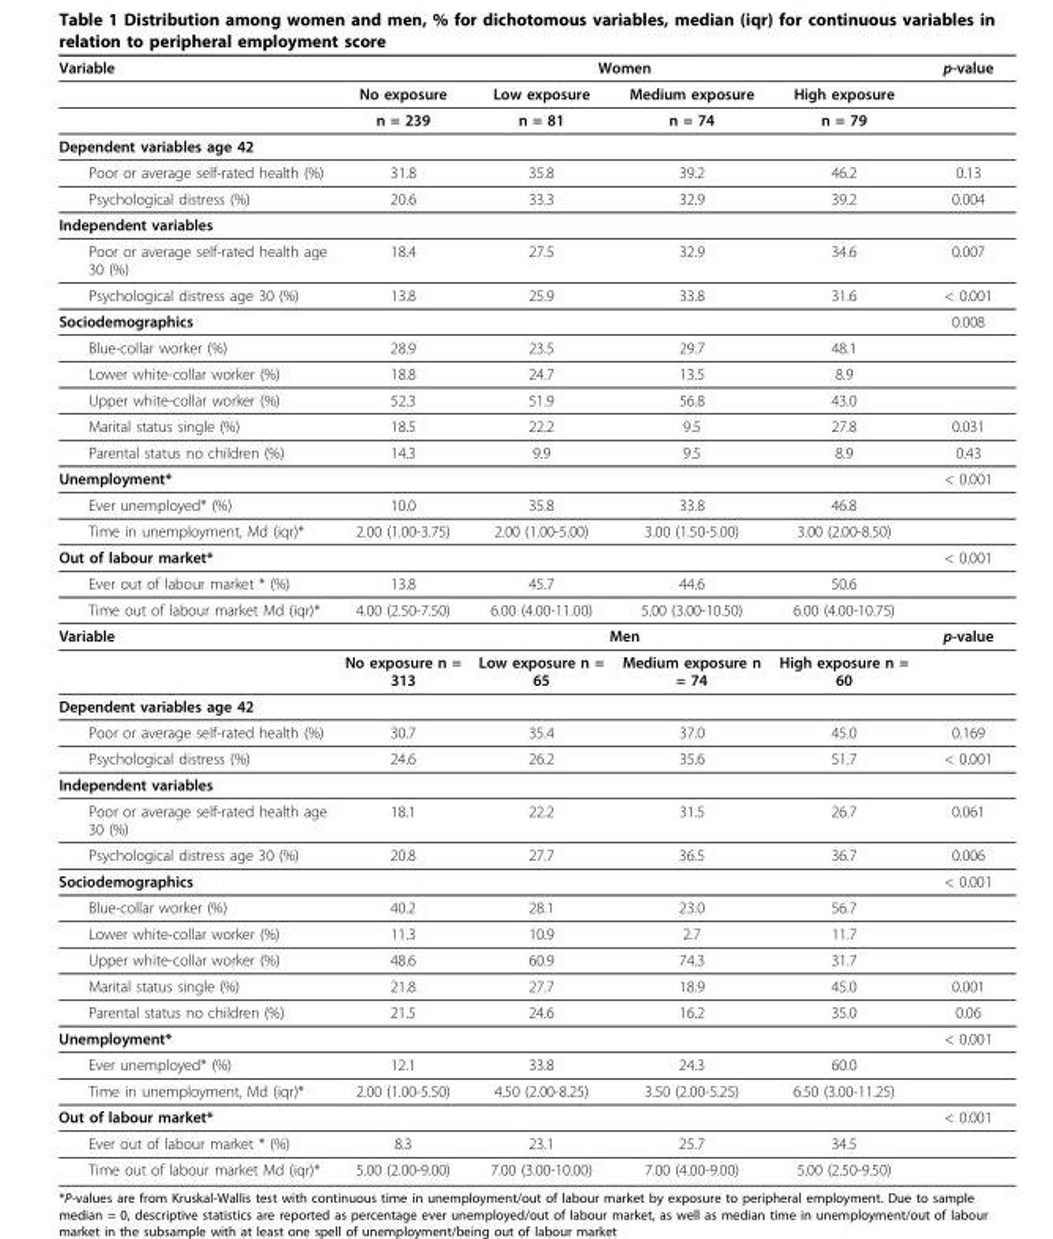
<table><thead><tr><td rowspan="2">Variable</td><td colspan="4">Women</td><td rowspan="2">p-value</td></tr><tr><td>No exposure</td><td>Low exposure</td><td>Medium exposure</td><td>High exposure</td></tr></thead><tbody><tr><td></td><td>n = 239</td><td>n = 81</td><td>n = 74</td><td>n = 79</td><td></td></tr><tr><td colspan="6">Dependent variables age 42</td></tr><tr><td>Poor or average self-rated health (%)</td><td>31.8</td><td>35.8</td><td>39.2</td><td>46.2</td><td>0.13</td></tr><tr><td>Psychological distress (%)</td><td>20.6</td><td>33.3</td><td>32.9</td><td>39.2</td><td>0.004</td></tr><tr><td colspan="6">Independent variables</td></tr><tr><td>Poor or average self-rated health age 30 (%)</td><td>18.4</td><td>27.5</td><td>32.9</td><td>34.6</td><td>0.007</td></tr><tr><td>Psychological distress age 30 (%)</td><td>13.8</td><td>25.9</td><td>33.8</td><td>31.6</td><td>&lt; 0.001</td></tr><tr><td>Sociodemographics</td><td></td><td></td><td></td><td></td><td>0.008</td></tr><tr><td>Blue-collar worker (%)</td><td>28.9</td><td>23.5</td><td>29.7</td><td>48.1</td><td></td></tr><tr><td>Lower white-collar worker (%)</td><td>18.8</td><td>24.7</td><td>13.5</td><td>8.9</td><td></td></tr><tr><td>Upper white-collar worker (%)</td><td>52.3</td><td>51.9</td><td>56.8</td><td>43.0</td><td></td></tr><tr><td>Marital status single (%)</td><td>18.5</td><td>22.2</td><td>9.5</td><td>27.8</td><td>0.031</td></tr><tr><td>Parental status no children (%)</td><td>14.3</td><td>9.9</td><td>9.5</td><td>8.9</td><td>0.43</td></tr><tr><td>Unemployment*</td><td></td><td></td><td></td><td></td><td>&lt; 0.001</td></tr><tr><td>Ever unemployed* (%)</td><td>10.0</td><td>35.8</td><td>33.8</td><td>46.8</td><td></td></tr><tr><td>Time in unemployment, Md (iqr)*</td><td>2.00 (1.00-3.75)</td><td>2.00 (1.00-5.00)</td><td>3.00 (1.50-5.00)</td><td>3.00 (2.00-8.50)</td><td></td></tr><tr><td>Out of labour market*</td><td></td><td></td><td></td><td></td><td>&lt; 0.001</td></tr><tr><td>Ever out of labour market * (%)</td><td>13.8</td><td>45.7</td><td>44.6</td><td>50.6</td><td></td></tr><tr><td>Time out of labour market Md (iqr)*</td><td>4.00 (2.50-7.50)</td><td>6.00 (4.00-11.00)</td><td>5.00 (3.00-10.50)</td><td>6.00 (4.00-10.75)</td><td></td></tr><tr><td rowspan="2">Variable</td><td colspan="4">Men</td><td>p-value</td></tr><tr><td>No exposure n = 313</td><td>Low exposure n = 65</td><td>Medium exposure n = 74</td><td>High exposure n = 60</td><td></td></tr><tr><td colspan="6">Dependent variables age 42</td></tr><tr><td>Poor or average self-rated health (%)</td><td>30.7</td><td>35.4</td><td>37.0</td><td>45.0</td><td>0.169</td></tr><tr><td>Psychological distress (%)</td><td>24.6</td><td>26.2</td><td>35.6</td><td>51.7</td><td>&lt; 0.001</td></tr><tr><td colspan="6">Independent variables</td></tr><tr><td>Poor or average self-rated health age 30 (%)</td><td>18.1</td><td>22.2</td><td>31.5</td><td>26.7</td><td>0.061</td></tr><tr><td>Psychological distress age 30 (%)</td><td>20.8</td><td>27.7</td><td>36.5</td><td>36.7</td><td>0.006</td></tr><tr><td>Sociodemographics</td><td></td><td></td><td></td><td></td><td>&lt; 0.001</td></tr><tr><td>Blue-collar worker (%)</td><td>40.2</td><td>28.1</td><td>23.0</td><td>56.7</td><td></td></tr><tr><td>Lower white-collar worker (%)</td><td>11.3</td><td>10.9</td><td>2.7</td><td>11.7</td><td></td></tr><tr><td>Upper white-collar worker (%)</td><td>48.6</td><td>60.9</td><td>74.3</td><td>31.7</td><td></td></tr><tr><td>Marital status single (%)</td><td>21.8</td><td>27.7</td><td>18.9</td><td>45.0</td><td>0.001</td></tr><tr><td>Parental status no children (%)</td><td>21.5</td><td>24.6</td><td>16.2</td><td>35.0</td><td>0.06</td></tr><tr><td>Unemployment*</td><td></td><td></td><td></td><td></td><td>&lt; 0.001</td></tr><tr><td>Ever unemployed* (%)</td><td>12.1</td><td>33.8</td><td>24.3</td><td>60.0</td><td></td></tr><tr><td>Time in unemployment, Md (iqr)*</td><td>2.00 (1.00-5.50)</td><td>4.50 (2.00-8.25)</td><td>3.50 (2.00-5.25)</td><td>6.50 (3.00-11.25)</td><td></td></tr><tr><td>Out of labour market*</td><td></td><td></td><td></td><td></td><td>&lt; 0.001</td></tr><tr><td>Ever out of labour market * (%)</td><td>8.3</td><td>23.1</td><td>25.7</td><td>34.5</td><td></td></tr><tr><td>Time out of labour market Md (iqr)*</td><td>5.00 (2.00-9.00)</td><td>7.00 (3.00-10.00)</td><td>7.00 (4.00-9.00)</td><td>5.00 (2.50-9.50)</td><td></td></tr></tbody></table>